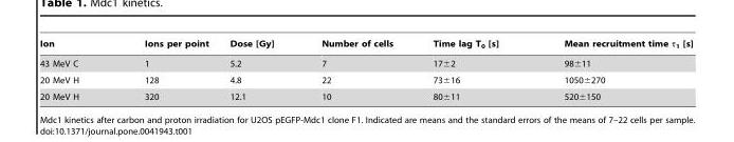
<table><thead><tr><td>Ion</td><td>Ions per point</td><td>Dose [Gy]</td><td>Number of cells</td><td>Time lag T<sub>0</sub> [s]</td><td>Mean recruitment time τ<sub>1</sub> [s]</td></tr></thead><tbody><tr><td>43 MeV C</td><td>1</td><td>5.2</td><td>7</td><td>17±2</td><td>98±11</td></tr><tr><td>20 MeV H</td><td>128</td><td>4.8</td><td>22</td><td>73±16</td><td>1050±270</td></tr><tr><td>20 MeV H</td><td>320</td><td>12.1</td><td>10</td><td>80±11</td><td>520±150</td></tr></tbody></table>